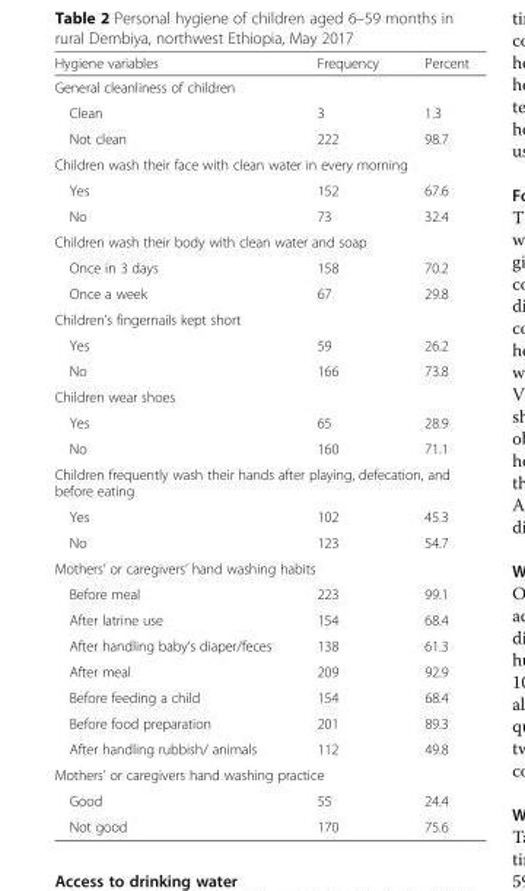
<table><thead><tr><td>Hygiene variables</td><td>Frequency</td><td>Percent</td></tr></thead><tbody><tr><td colspan="3">General cleanliness of children</td></tr><tr><td>Clean</td><td>3</td><td>1.3</td></tr><tr><td>Not clean</td><td>222</td><td>98.7</td></tr><tr><td colspan="3">Children wash their face with clean water in every morning</td></tr><tr><td>Yes</td><td>152</td><td>67.6</td></tr><tr><td>No</td><td>73</td><td>32.4</td></tr><tr><td colspan="3">Children wash their body with clean water and soap</td></tr><tr><td>Once in 3 days</td><td>158</td><td>70.2</td></tr><tr><td>Once a week</td><td>67</td><td>29.8</td></tr><tr><td colspan="3">Children’s fingernails kept short</td></tr><tr><td>Yes</td><td>59</td><td>26.2</td></tr><tr><td>No</td><td>166</td><td>73.8</td></tr><tr><td colspan="3">Children wear shoes</td></tr><tr><td>Yes</td><td>65</td><td>28.9</td></tr><tr><td>No</td><td>160</td><td>71.1</td></tr><tr><td colspan="3">Children frequently wash their hands after playing, defecation, and before eating</td></tr><tr><td>Yes</td><td>102</td><td>45.3</td></tr><tr><td>No</td><td>123</td><td>54.7</td></tr><tr><td colspan="3">Mothers’ or caregivers’ hand washing habits</td></tr><tr><td>Before meal</td><td>223</td><td>99.1</td></tr><tr><td>After latrine use</td><td>154</td><td>68.4</td></tr><tr><td>After handling baby’s diaper/feces</td><td>138</td><td>61.3</td></tr><tr><td>After meal</td><td>209</td><td>92.9</td></tr><tr><td>Before feeding a child</td><td>154</td><td>68.4</td></tr><tr><td>Before food preparation</td><td>201</td><td>89.3</td></tr><tr><td>After handling rubbish/ animals</td><td>112</td><td>49.8</td></tr><tr><td colspan="3">Mothers’ or caregivers hand washing practice</td></tr><tr><td>Good</td><td>55</td><td>24.4</td></tr><tr><td>Not good</td><td>170</td><td>75.6</td></tr></tbody></table>